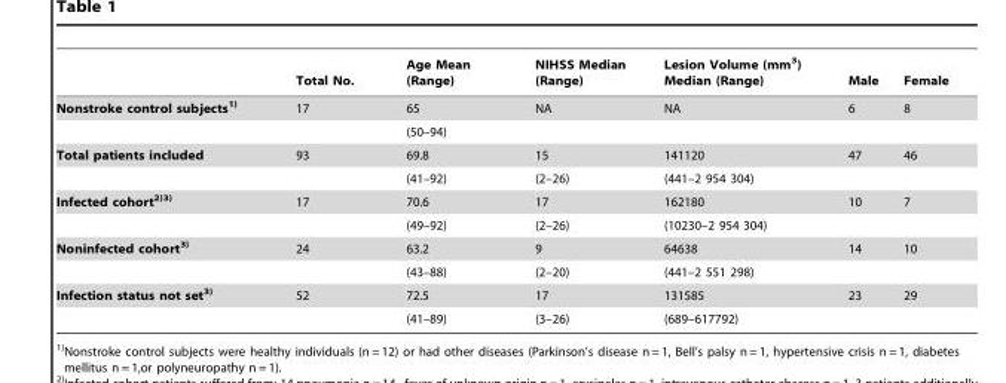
<table><thead><tr><td></td><td>Total No.</td><td>Age Mean (Range)</td><td>NIHSS Median (Range)</td><td>Lesion Volume (mm<sup>3</sup>) Median (Range)</td><td>Male</td><td>Female</td></tr></thead><tbody><tr><td rowspan="2">Nonstroke control subjects1)</td><td>17</td><td>65</td><td>NA</td><td>NA</td><td>6</td><td>8</td></tr><tr><td></td><td>(50–94)</td><td></td><td></td><td></td><td></td></tr><tr><td rowspan="2">Total patients included</td><td>93</td><td>69.8</td><td>15</td><td>141120</td><td>47</td><td>46</td></tr><tr><td></td><td>(41–92)</td><td>(2–26)</td><td>(441–2 954 304)</td><td></td><td></td></tr><tr><td rowspan="2">Infected cohort<sup>2)3)</sup></td><td>17</td><td>70.6</td><td>17</td><td>162180</td><td>10</td><td>7</td></tr><tr><td></td><td>(49–92)</td><td>(2–26)</td><td>(10230–2 954 304)</td><td></td><td></td></tr><tr><td rowspan="2">Noninfected cohort3)</td><td>24</td><td>63.2</td><td>9</td><td>64638</td><td>14</td><td>10</td></tr><tr><td></td><td>(43–88)</td><td>(2–20)</td><td>(441–2 551 298)</td><td></td><td></td></tr><tr><td rowspan="2">Infection status not set3)</td><td>52</td><td>72.5</td><td>17</td><td>131585</td><td>23</td><td>29</td></tr><tr><td></td><td>(41–89)</td><td>(3–26)</td><td>(689–617792)</td><td></td><td></td></tr></tbody></table>